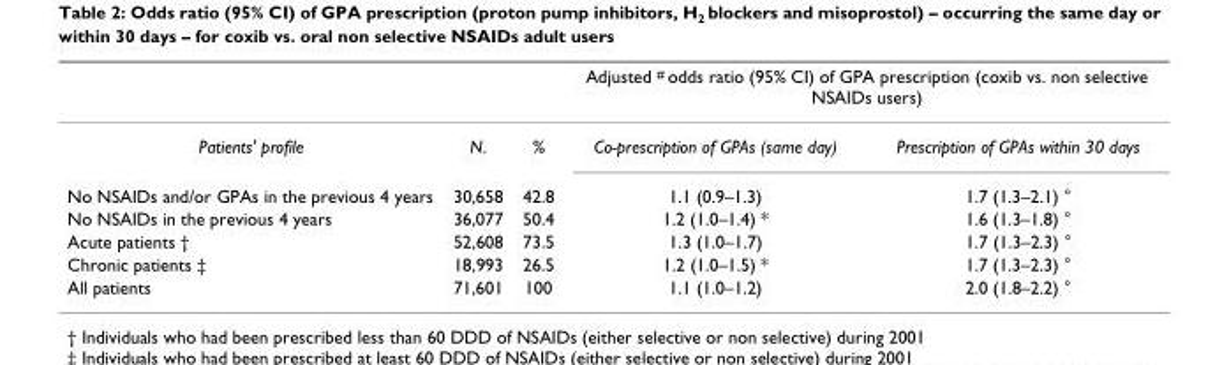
<table><thead><tr><td rowspan="2">Patients&#x27; profile</td><td rowspan="2">N.</td><td rowspan="2">%</td><td colspan="2">Adjusted <sup>#</sup> odds ratio (95% CI) of GPA prescription (coxib vs. non selective NSAIDs users)</td></tr><tr><td>Co-prescription of GPAs (same day)</td><td>Prescription of GPAs within 30 days</td></tr></thead><tbody><tr><td>No NSAIDs and/or GPAs in the previous 4 years</td><td>30,658</td><td>42.8</td><td>1.1 (0.9–1.3)</td><td>1.7 (1.3–2.1) °</td></tr><tr><td>No NSAIDs in the previous 4 years</td><td>36,077</td><td>50.4</td><td>1.2 (1.0–1.4) *</td><td>1.6 (1.3–1.8) °</td></tr><tr><td>Acute patients †</td><td>52,608</td><td>73.5</td><td>1.3 (1.0–1.7)</td><td>1.7 (1.3–2.3) °</td></tr><tr><td>Chronic patients ‡</td><td>18,993</td><td>26.5</td><td>1.2 (1.0–1.5) *</td><td>1.7 (1.3–2.3) °</td></tr><tr><td>All patients</td><td>71,601</td><td>100</td><td>1.1 (1.0–1.2)</td><td>2.0 (1.8–2.2) °</td></tr></tbody></table>